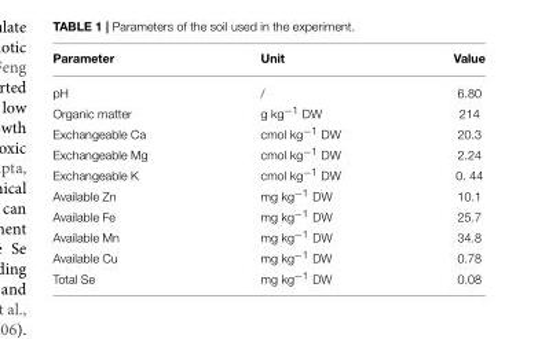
<table><thead><tr><td>Parameter</td><td>Unit</td><td>Value</td></tr></thead><tbody><tr><td>pH</td><td>/</td><td>6.80</td></tr><tr><td>Organic matter</td><td>g kg<sup>−1</sup> DW</td><td>214</td></tr><tr><td>Exchangeable Ca</td><td>cmol kg<sup>−1</sup> DW</td><td>20.3</td></tr><tr><td>Exchangeable Mg</td><td>cmol kg<sup>−1</sup> DW</td><td>2.24</td></tr><tr><td>Exchangeable K</td><td>cmol kg<sup>−1</sup> DW</td><td>0. 44</td></tr><tr><td>Available Zn</td><td>mg kg<sup>−1</sup> DW</td><td>10.1</td></tr><tr><td>Available Fe</td><td>mg kg<sup>−1</sup> DW</td><td>25.7</td></tr><tr><td>Available Mn</td><td>mg kg<sup>−1</sup> DW</td><td>34.8</td></tr><tr><td>Available Cu</td><td>mg kg<sup>−1</sup> DW</td><td>0.78</td></tr><tr><td>Total Se</td><td>mg kg<sup>−1</sup> DW</td><td>0.08</td></tr></tbody></table>